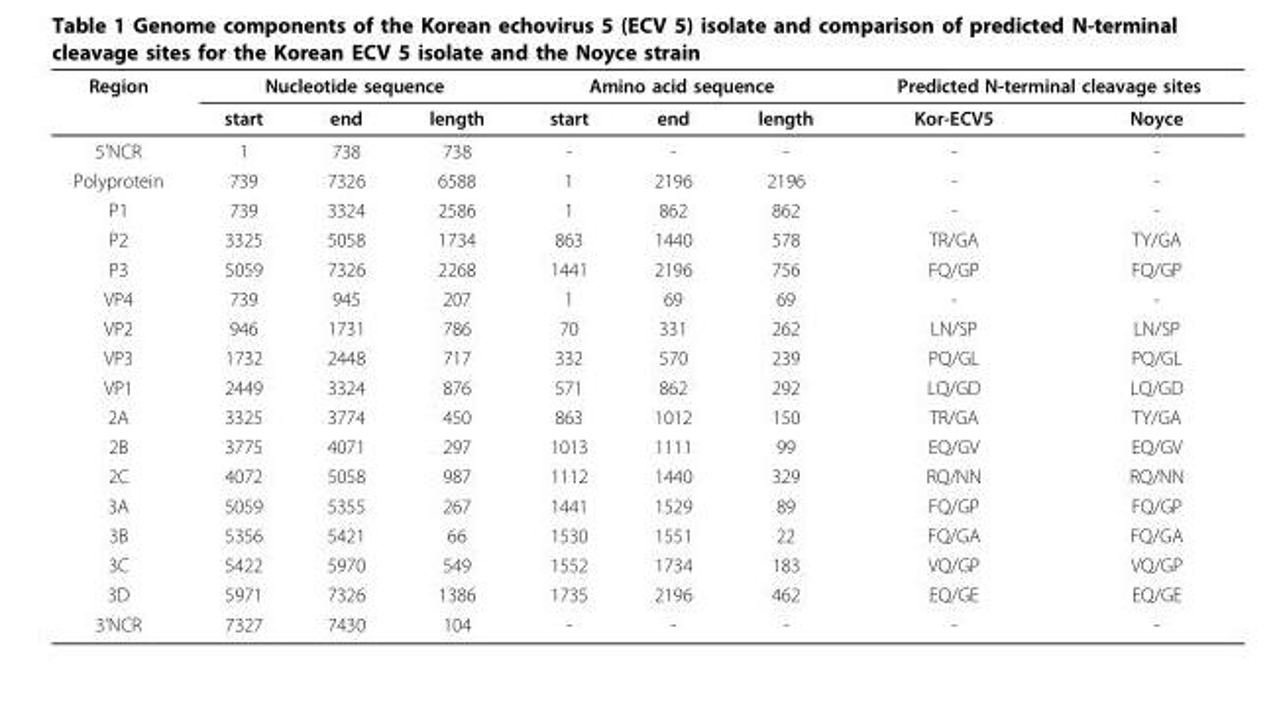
<table><thead><tr><td rowspan="2">Region</td><td colspan="3">Nucleotide sequence</td><td colspan="3">Amino acid sequence</td><td colspan="2">Predicted N-terminal cleavage sites</td></tr><tr><td>start</td><td>end</td><td>length</td><td>start</td><td>end</td><td>length</td><td>Kor-ECV5</td><td>Noyce</td></tr></thead><tbody><tr><td>5’NCR</td><td>1</td><td>738</td><td>738</td><td>-</td><td>-</td><td>-</td><td>-</td><td>-</td></tr><tr><td>Polyprotein</td><td>739</td><td>7326</td><td>6588</td><td>1</td><td>2196</td><td>2196</td><td>-</td><td>-</td></tr><tr><td>P1</td><td>739</td><td>3324</td><td>2586</td><td>1</td><td>862</td><td>862</td><td>-</td><td>-</td></tr><tr><td>P2</td><td>3325</td><td>5058</td><td>1734</td><td>863</td><td>1440</td><td>578</td><td>TR/GA</td><td>TY/GA</td></tr><tr><td>P3</td><td>5059</td><td>7326</td><td>2268</td><td>1441</td><td>2196</td><td>756</td><td>FQ/GP</td><td>FQ/GP</td></tr><tr><td>VP4</td><td>739</td><td>945</td><td>207</td><td>1</td><td>69</td><td>69</td><td>-</td><td>-</td></tr><tr><td>VP2</td><td>946</td><td>1731</td><td>786</td><td>70</td><td>331</td><td>262</td><td>LN/SP</td><td>LN/SP</td></tr><tr><td>VP3</td><td>1732</td><td>2448</td><td>717</td><td>332</td><td>570</td><td>239</td><td>PQ/GL</td><td>PQ/GL</td></tr><tr><td>VP1</td><td>2449</td><td>3324</td><td>876</td><td>571</td><td>862</td><td>292</td><td>LQ/GD</td><td>LQ/GD</td></tr><tr><td>2A</td><td>3325</td><td>3774</td><td>450</td><td>863</td><td>1012</td><td>150</td><td>TR/GA</td><td>TY/GA</td></tr><tr><td>2B</td><td>3775</td><td>4071</td><td>297</td><td>1013</td><td>1111</td><td>99</td><td>EQ/GV</td><td>EQ/GV</td></tr><tr><td>2C</td><td>4072</td><td>5058</td><td>987</td><td>1112</td><td>1440</td><td>329</td><td>RQ/NN</td><td>RQ/NN</td></tr><tr><td>3A</td><td>5059</td><td>5355</td><td>267</td><td>1441</td><td>1529</td><td>89</td><td>FQ/GP</td><td>FQ/GP</td></tr><tr><td>3B</td><td>5356</td><td>5421</td><td>66</td><td>1530</td><td>1551</td><td>22</td><td>FQ/GA</td><td>FQ/GA</td></tr><tr><td>3C</td><td>5422</td><td>5970</td><td>549</td><td>1552</td><td>1734</td><td>183</td><td>VQ/GP</td><td>VQ/GP</td></tr><tr><td>3D</td><td>5971</td><td>7326</td><td>1386</td><td>1735</td><td>2196</td><td>462</td><td>EQ/GE</td><td>EQ/GE</td></tr><tr><td>3’NCR</td><td>7327</td><td>7430</td><td>104</td><td>-</td><td>-</td><td>-</td><td>-</td><td>-</td></tr></tbody></table>